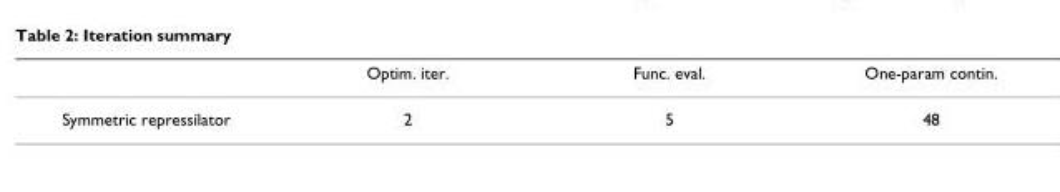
<table><thead><tr><td></td><td>Optim. iter.</td><td>Func. eval.</td><td>One-param contin.</td></tr></thead><tbody><tr><td>Symmetric repressilator</td><td>2</td><td>5</td><td>48</td></tr></tbody></table>